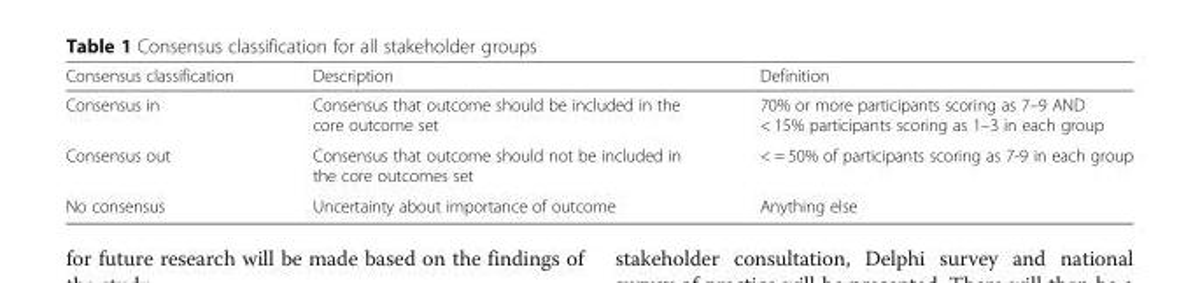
<table><thead><tr><td>Consensus classification</td><td>Description</td><td>Definition</td></tr></thead><tbody><tr><td>Consensus in</td><td>Consensus that outcome should be included in the core outcome set</td><td>70% or more participants scoring as 7–9 AND &lt; 15% participants scoring as 1–3 in each group</td></tr><tr><td>Consensus out</td><td>Consensus that outcome should not be included in the core outcomes set</td><td>&lt; = 50% of participants scoring as 7-9 in each group</td></tr><tr><td>No consensus</td><td>Uncertainty about importance of outcome</td><td>Anything else</td></tr></tbody></table>